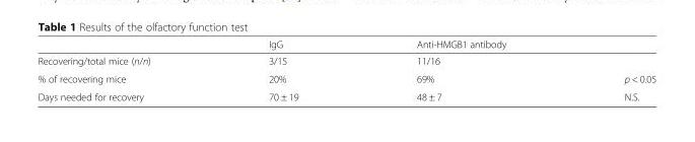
<table><thead><tr><td></td><td>IgG</td><td>Anti-HMGB1 antibody</td><td></td></tr></thead><tbody><tr><td>Recovering/total mice (n/n)</td><td>3/15</td><td>11/16</td><td></td></tr><tr><td>% of recovering mice</td><td>20%</td><td>69%</td><td>p &lt; 0.05</td></tr><tr><td>Days needed for recovery</td><td>70 ± 19</td><td>48 ± 7</td><td>N.S.</td></tr></tbody></table>